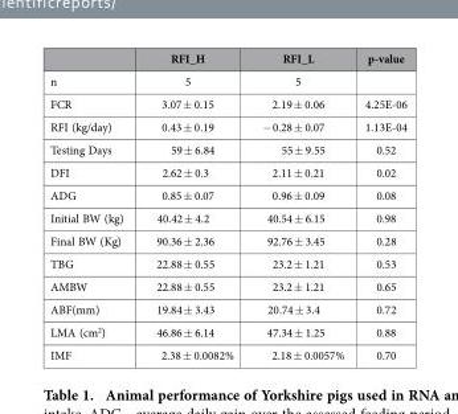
<table><thead><tr><td></td><td>RFI_H</td><td>RFI_L</td><td>p-value</td></tr></thead><tbody><tr><td>n</td><td>5</td><td>5</td><td></td></tr><tr><td>FCR</td><td>3.07 ± 0.15</td><td>2.19 ± 0.06</td><td>4.25E-06</td></tr><tr><td>RFI (kg/day)</td><td>0.43 ± 0.19</td><td>− 0.28 ± 0.07</td><td>1.13E-04</td></tr><tr><td>Testing Days</td><td>59 ± 6.84</td><td>55 ± 9.55</td><td>0.52</td></tr><tr><td>DFI</td><td>2.62 ± 0.3</td><td>2.11 ± 0.21</td><td>0.02</td></tr><tr><td>ADG</td><td>0.85 ± 0.07</td><td>0.96 ± 0.09</td><td>0.08</td></tr><tr><td>Initial BW (kg)</td><td>40.42 ± 4.2</td><td>40.54 ± 6.15</td><td>0.98</td></tr><tr><td>Final BW (Kg)</td><td>90.36 ± 2.36</td><td>92.76 ± 3.45</td><td>0.28</td></tr><tr><td>TBG</td><td>22.88 ± 0.55</td><td>23.2 ± 1.21</td><td>0.53</td></tr><tr><td>AMBW</td><td>22.88 ± 0.55</td><td>23.2 ± 1.21</td><td>0.65</td></tr><tr><td>ABF(mm)</td><td>19.84 ± 3.43</td><td>20.74 ± 3.4</td><td>0.72</td></tr><tr><td>LMA (cm<sup>2</sup>)</td><td>46.86 ± 6.14</td><td>47.34 ± 1.25</td><td>0.88</td></tr><tr><td>IMF</td><td>2.38 ± 0.0082%</td><td>2.18 ± 0.0057%</td><td>0.70</td></tr></tbody></table>